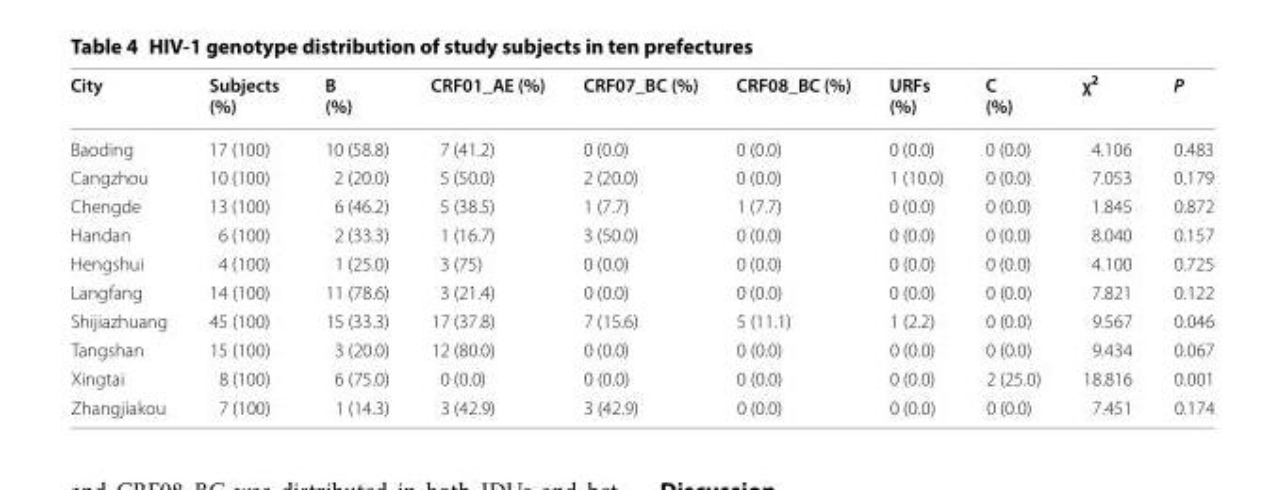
<table><thead><tr><td>City</td><td>Subjects (%)</td><td>B (%)</td><td>CRF01_AE (%)</td><td>CRF07_BC (%)</td><td>CRF08_BC (%)</td><td>URFs (%)</td><td>C (%)</td><td>χ<sup>2</sup></td><td>P</td></tr></thead><tbody><tr><td>Baoding</td><td>17 (100)</td><td>10 (58.8)</td><td>7 (41.2)</td><td>0 (0.0)</td><td>0 (0.0)</td><td>0 (0.0)</td><td>0 (0.0)</td><td>4.106</td><td>0.483</td></tr><tr><td>Cangzhou</td><td>10 (100)</td><td>2 (20.0)</td><td>5 (50.0)</td><td>2 (20.0)</td><td>0 (0.0)</td><td>1 (10.0)</td><td>0 (0.0)</td><td>7.053</td><td>0.179</td></tr><tr><td>Chengde</td><td>13 (100)</td><td>6 (46.2)</td><td>5 (38.5)</td><td>1 (7.7)</td><td>1 (7.7)</td><td>0 (0.0)</td><td>0 (0.0)</td><td>1.845</td><td>0.872</td></tr><tr><td>Handan</td><td>6 (100)</td><td>2 (33.3)</td><td>1 (16.7)</td><td>3 (50.0)</td><td>0 (0.0)</td><td>0 (0.0)</td><td>0 (0.0)</td><td>8.040</td><td>0.157</td></tr><tr><td>Hengshui</td><td>4 (100)</td><td>1 (25.0)</td><td>3 (75)</td><td>0 (0.0)</td><td>0 (0.0)</td><td>0 (0.0)</td><td>0 (0.0)</td><td>4.100</td><td>0.725</td></tr><tr><td>Langfang</td><td>14 (100)</td><td>11 (78.6)</td><td>3 (21.4)</td><td>0 (0.0)</td><td>0 (0.0)</td><td>0 (0.0)</td><td>0 (0.0)</td><td>7.821</td><td>0.122</td></tr><tr><td>Shijiazhuang</td><td>45 (100)</td><td>15 (33.3)</td><td>17 (37.8)</td><td>7 (15.6)</td><td>5 (11.1)</td><td>1 (2.2)</td><td>0 (0.0)</td><td>9.567</td><td>0.046</td></tr><tr><td>Tangshan</td><td>15 (100)</td><td>3 (20.0)</td><td>12 (80.0)</td><td>0 (0.0)</td><td>0 (0.0)</td><td>0 (0.0)</td><td>0 (0.0)</td><td>9.434</td><td>0.067</td></tr><tr><td>Xingtai</td><td>8 (100)</td><td>6 (75.0)</td><td>0 (0.0)</td><td>0 (0.0)</td><td>0 (0.0)</td><td>0 (0.0)</td><td>2 (25.0)</td><td>18.816</td><td>0.001</td></tr><tr><td>Zhangjiakou</td><td>7 (100)</td><td>1 (14.3)</td><td>3 (42.9)</td><td>3 (42.9)</td><td>0 (0.0)</td><td>0 (0.0)</td><td>0 (0.0)</td><td>7.451</td><td>0.174</td></tr></tbody></table>